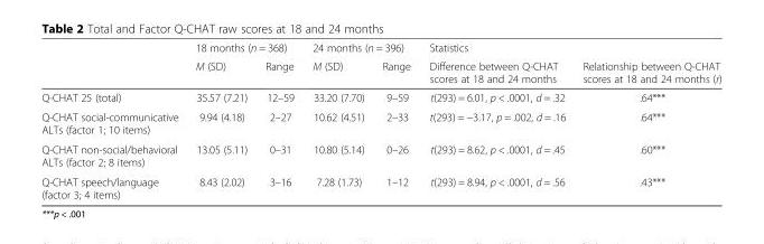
<table><thead><tr><td rowspan="2"></td><td colspan="2">18 months (n = 368)</td><td colspan="2">24 months (n = 396)</td><td colspan="2">Statistics</td></tr><tr><td>M (SD)</td><td>Range</td><td>M (SD)</td><td>Range</td><td>Difference between Q-CHAT scores at 18 and 24 months</td><td>Relationship between Q-CHAT scores at 18 and 24 months (r)</td></tr></thead><tbody><tr><td>Q-CHAT 25 (total)</td><td>35.57 (7.21)</td><td>12–59</td><td>33.20 (7.70)</td><td>9–59</td><td>t(293) = 6.01, p &lt; .0001, d = .32</td><td>.64***</td></tr><tr><td>Q-CHAT social-communicative ALTs (factor 1; 10 items)</td><td>9.94 (4.18)</td><td>2–27</td><td>10.62 (4.51)</td><td>2–33</td><td>t(293) = −3.17, p = .002, d = .16</td><td>.64***</td></tr><tr><td>Q-CHAT non-social/behavioral ALTs (factor 2; 8 items)</td><td>13.05 (5.11)</td><td>0–31</td><td>10.80 (5.14)</td><td>0–26</td><td>t(293) = 8.62, p &lt; .0001, d = .45</td><td>.60***</td></tr><tr><td>Q-CHAT speech/language (factor 3; 4 items)</td><td>8.43 (2.02)</td><td>3–16</td><td>7.28 (1.73)</td><td>1–12</td><td>t(293) = 8.94, p &lt; .0001, d = .56</td><td>.43***</td></tr></tbody></table>